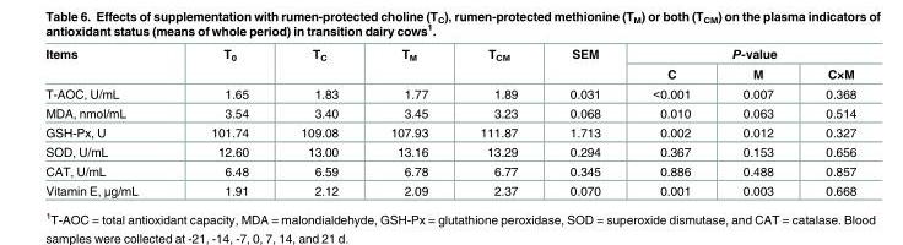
<table><thead><tr><td rowspan="2">Items</td><td rowspan="2">T<sub>0</sub></td><td rowspan="2">T<sub>C</sub></td><td rowspan="2">T<sub>M</sub></td><td rowspan="2">T<sub>CM</sub></td><td rowspan="2">SEM</td><td colspan="3">P-value</td></tr><tr><td>C</td><td>M</td><td>C×M</td></tr></thead><tbody><tr><td>T-AOC, U/mL</td><td>1.65</td><td>1.83</td><td>1.77</td><td>1.89</td><td>0.031</td><td>&lt;0.001</td><td>0.007</td><td>0.368</td></tr><tr><td>MDA, nmol/mL</td><td>3.54</td><td>3.40</td><td>3.45</td><td>3.23</td><td>0.068</td><td>0.010</td><td>0.063</td><td>0.514</td></tr><tr><td>GSH-Px, U</td><td>101.74</td><td>109.08</td><td>107.93</td><td>111.87</td><td>1.713</td><td>0.002</td><td>0.012</td><td>0.327</td></tr><tr><td>SOD, U/mL</td><td>12.60</td><td>13.00</td><td>13.16</td><td>13.29</td><td>0.294</td><td>0.367</td><td>0.153</td><td>0.656</td></tr><tr><td>CAT, U/mL</td><td>6.48</td><td>6.59</td><td>6.78</td><td>6.77</td><td>0.345</td><td>0.886</td><td>0.488</td><td>0.857</td></tr><tr><td>Vitamin E, μg/mL</td><td>1.91</td><td>2.12</td><td>2.09</td><td>2.37</td><td>0.070</td><td>0.001</td><td>0.003</td><td>0.668</td></tr></tbody></table>